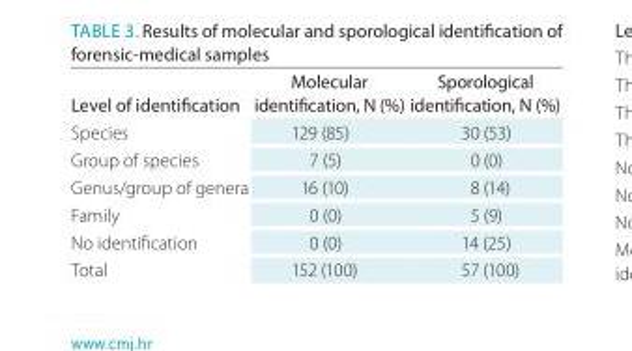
<table><thead><tr><td>level of identification</td><td>Molecular identification, n (%)</td><td>Sporological identification, n (%)</td></tr></thead><tbody><tr><td>Species</td><td>129 (85)</td><td>30 (53)</td></tr><tr><td>Group of species</td><td>7 (5)</td><td>0 (0)</td></tr><tr><td>Genus/group of genera</td><td>16 (10)</td><td>8 (14)</td></tr><tr><td>Family</td><td>0 (0)</td><td>5 (9)</td></tr><tr><td>No identification</td><td>0 (0)</td><td>14 (25)</td></tr><tr><td>Total</td><td>152 (100)</td><td>57 (100)</td></tr></tbody></table>